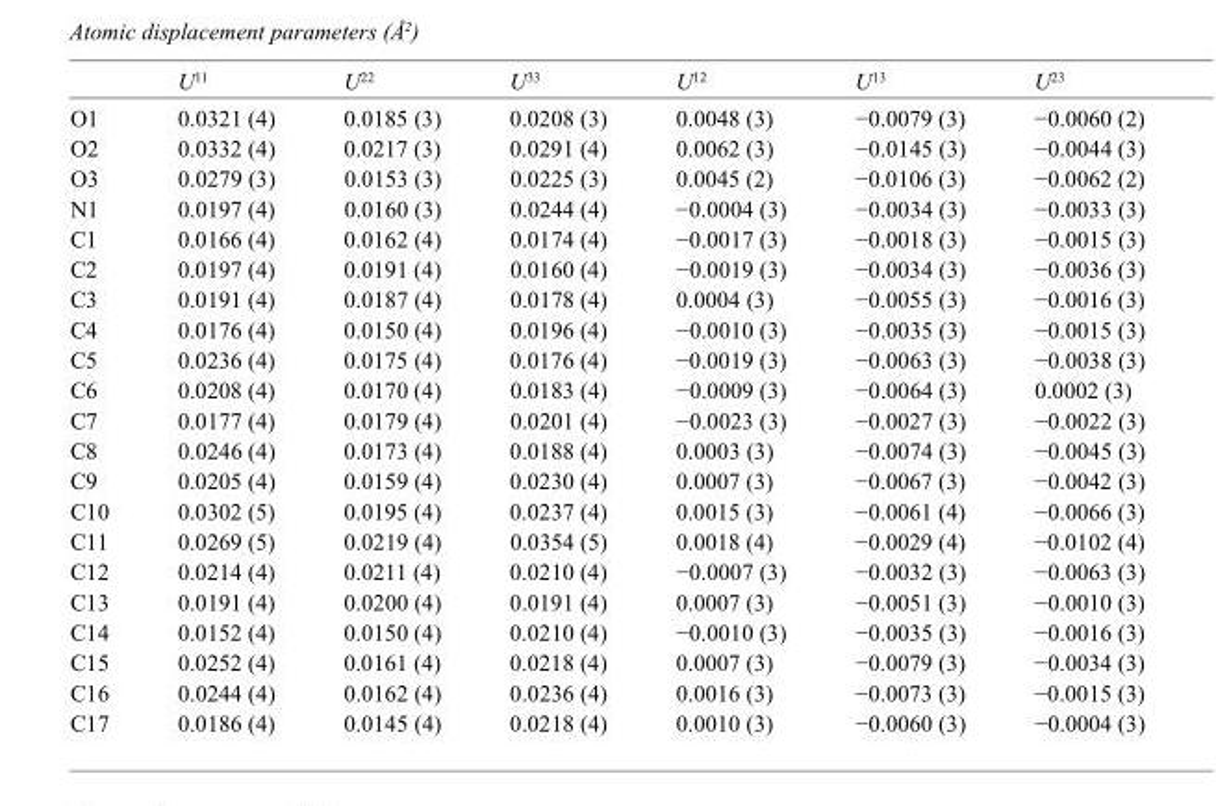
<table><thead><tr><td></td><td>U<sup>11</sup></td><td>U<sup>22</sup></td><td>U<sup>33</sup></td><td>U<sup>12</sup></td><td>U<sup>13</sup></td><td>U<sup>23</sup></td></tr></thead><tbody><tr><td>O1</td><td>0.0321 (4)</td><td>0.0185 (3)</td><td>0.0208 (3)</td><td>0.0048 (3)</td><td>−0.0079 (3)</td><td>−0.0060 (2)</td></tr><tr><td>O2</td><td>0.0332 (4)</td><td>0.0217 (3)</td><td>0.0291 (4)</td><td>0.0062 (3)</td><td>−0.0145 (3)</td><td>−0.0044 (3)</td></tr><tr><td>O3</td><td>0.0279 (3)</td><td>0.0153 (3)</td><td>0.0225 (3)</td><td>0.0045 (2)</td><td>−0.0106 (3)</td><td>−0.0062 (2)</td></tr><tr><td>N1</td><td>0.0197 (4)</td><td>0.0160 (3)</td><td>0.0244 (4)</td><td>−0.0004 (3)</td><td>−0.0034 (3)</td><td>−0.0033 (3)</td></tr><tr><td>C1</td><td>0.0166 (4)</td><td>0.0162 (4)</td><td>0.0174 (4)</td><td>−0.0017 (3)</td><td>−0.0018 (3)</td><td>−0.0015 (3)</td></tr><tr><td>C2</td><td>0.0197 (4)</td><td>0.0191 (4)</td><td>0.0160 (4)</td><td>−0.0019 (3)</td><td>−0.0034 (3)</td><td>−0.0036 (3)</td></tr><tr><td>C3</td><td>0.0191 (4)</td><td>0.0187 (4)</td><td>0.0178 (4)</td><td>0.0004 (3)</td><td>−0.0055 (3)</td><td>−0.0016 (3)</td></tr><tr><td>C4</td><td>0.0176 (4)</td><td>0.0150 (4)</td><td>0.0196 (4)</td><td>−0.0010 (3)</td><td>−0.0035 (3)</td><td>−0.0015 (3)</td></tr><tr><td>C5</td><td>0.0236 (4)</td><td>0.0175 (4)</td><td>0.0176 (4)</td><td>−0.0019 (3)</td><td>−0.0063 (3)</td><td>−0.0038 (3)</td></tr><tr><td>C6</td><td>0.0208 (4)</td><td>0.0170 (4)</td><td>0.0183 (4)</td><td>−0.0009 (3)</td><td>−0.0064 (3)</td><td>0.0002 (3)</td></tr><tr><td>C7</td><td>0.0177 (4)</td><td>0.0179 (4)</td><td>0.0201 (4)</td><td>−0.0023 (3)</td><td>−0.0027 (3)</td><td>−0.0022 (3)</td></tr><tr><td>C8</td><td>0.0246 (4)</td><td>0.0173 (4)</td><td>0.0188 (4)</td><td>0.0003 (3)</td><td>−0.0074 (3)</td><td>−0.0045 (3)</td></tr><tr><td>C9</td><td>0.0205 (4)</td><td>0.0159 (4)</td><td>0.0230 (4)</td><td>0.0007 (3)</td><td>−0.0067 (3)</td><td>−0.0042 (3)</td></tr><tr><td>C10</td><td>0.0302 (5)</td><td>0.0195 (4)</td><td>0.0237 (4)</td><td>0.0015 (3)</td><td>−0.0061 (4)</td><td>−0.0066 (3)</td></tr><tr><td>C11</td><td>0.0269 (5)</td><td>0.0219 (4)</td><td>0.0354 (5)</td><td>0.0018 (4)</td><td>−0.0029 (4)</td><td>−0.0102 (4)</td></tr><tr><td>C12</td><td>0.0214 (4)</td><td>0.0211 (4)</td><td>0.0210 (4)</td><td>−0.0007 (3)</td><td>−0.0032 (3)</td><td>−0.0063 (3)</td></tr><tr><td>C13</td><td>0.0191 (4)</td><td>0.0200 (4)</td><td>0.0191 (4)</td><td>0.0007 (3)</td><td>−0.0051 (3)</td><td>−0.0010 (3)</td></tr><tr><td>C14</td><td>0.0152 (4)</td><td>0.0150 (4)</td><td>0.0210 (4)</td><td>−0.0010 (3)</td><td>−0.0035 (3)</td><td>−0.0016 (3)</td></tr><tr><td>C15</td><td>0.0252 (4)</td><td>0.0161 (4)</td><td>0.0218 (4)</td><td>0.0007 (3)</td><td>−0.0079 (3)</td><td>−0.0034 (3)</td></tr><tr><td>C16</td><td>0.0244 (4)</td><td>0.0162 (4)</td><td>0.0236 (4)</td><td>0.0016 (3)</td><td>−0.0073 (3)</td><td>−0.0015 (3)</td></tr><tr><td>C17</td><td>0.0186 (4)</td><td>0.0145 (4)</td><td>0.0218 (4)</td><td>0.0010 (3)</td><td>−0.0060 (3)</td><td>−0.0004 (3)</td></tr></tbody></table>